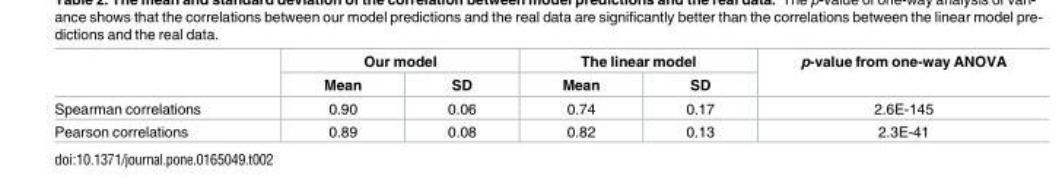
<table><thead><tr><td rowspan="2"></td><td colspan="2">Our model</td><td colspan="2">The linear model</td><td rowspan="2">p-value from one-way ANOVA</td></tr><tr><td>Mean</td><td>SD</td><td>Mean</td><td>SD</td></tr></thead><tbody><tr><td>Spearman correlations</td><td>0.90</td><td>0.06</td><td>0.74</td><td>0.17</td><td>2.6E-145</td></tr><tr><td>Pearson correlations</td><td>0.89</td><td>0.08</td><td>0.82</td><td>0.13</td><td>2.3E-41</td></tr></tbody></table>